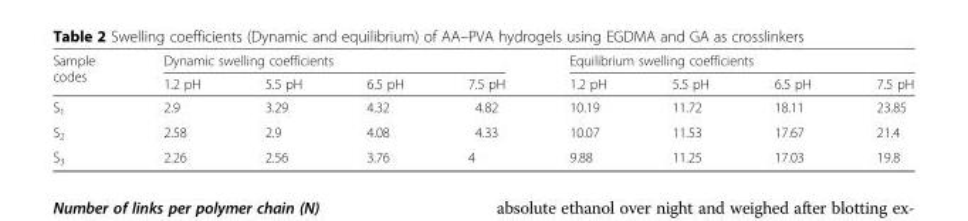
<table><thead><tr><td rowspan="2">Sample codes</td><td colspan="4">Dynamic swelling coefficients</td><td colspan="4">Equilibrium swelling coefficients</td></tr><tr><td>1.2 pH</td><td>5.5 pH</td><td>6.5 pH</td><td>7.5 pH</td><td>1.2 pH</td><td>5.5 pH</td><td>6.5 pH</td><td>7.5 pH</td></tr></thead><tbody><tr><td>S<sub>1</sub></td><td>2.9</td><td>3.29</td><td>4.32</td><td>4.82</td><td>10.19</td><td>11.72</td><td>18.11</td><td>23.85</td></tr><tr><td>S<sub>2</sub></td><td>2.58</td><td>2.9</td><td>4.08</td><td>4.33</td><td>10.07</td><td>11.53</td><td>17.67</td><td>21.4</td></tr><tr><td>S<sub>3</sub></td><td>2.26</td><td>2.56</td><td>3.76</td><td>4</td><td>9.88</td><td>11.25</td><td>17.03</td><td>19.8</td></tr></tbody></table>